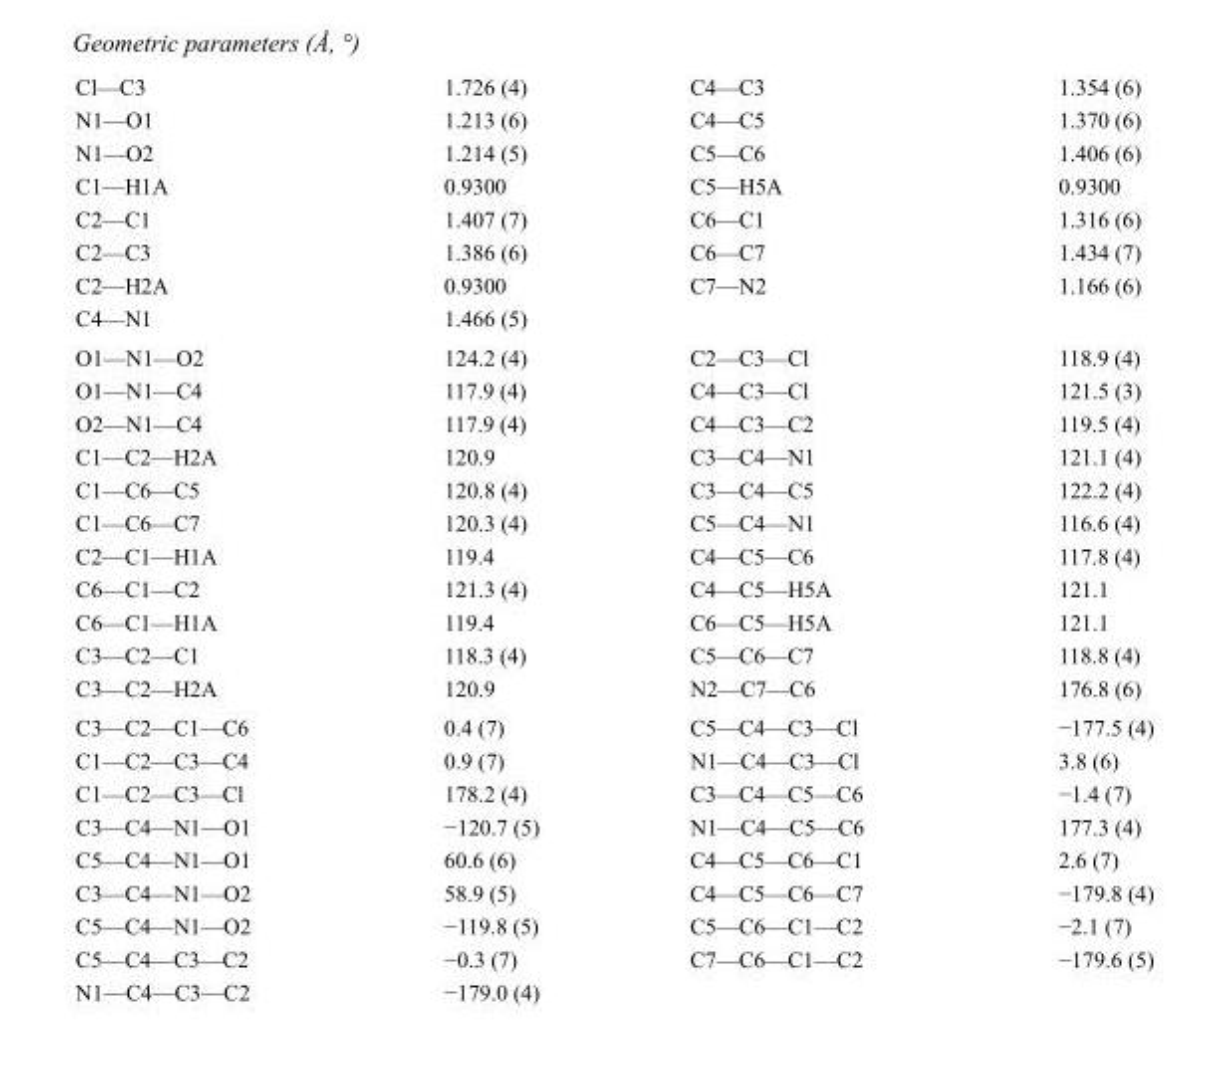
<table><tbody><tr><td>Cl—C3</td><td>1.726 (4)</td><td>C4—C3</td><td>1.354 (6)</td></tr><tr><td>N1—O1</td><td>1.213 (6)</td><td>C4—C5</td><td>1.370 (6)</td></tr><tr><td>N1—O2</td><td>1.214 (5)</td><td>C5—C6</td><td>1.406 (6)</td></tr><tr><td>C1—H1A</td><td>0.9300</td><td>C5—H5A</td><td>0.9300</td></tr><tr><td>C2—C1</td><td>1.407 (7)</td><td>C6—C1</td><td>1.316 (6)</td></tr><tr><td>C2—C3</td><td>1.386 (6)</td><td>C6—C7</td><td>1.434 (7)</td></tr><tr><td>C2—H2A</td><td>0.9300</td><td>C7—N2</td><td>1.166 (6)</td></tr><tr><td>C4—N1</td><td>1.466 (5)</td><td></td><td></td></tr><tr><td>O1—N1—O2</td><td>124.2 (4)</td><td>C2—C3—Cl</td><td>118.9 (4)</td></tr><tr><td>O1—N1—C4</td><td>117.9 (4)</td><td>C4—C3—Cl</td><td>121.5 (3)</td></tr><tr><td>O2—N1—C4</td><td>117.9 (4)</td><td>C4—C3—C2</td><td>119.5 (4)</td></tr><tr><td>C1—C2—H2A</td><td>120.9</td><td>C3—C4—N1</td><td>121.1 (4)</td></tr><tr><td>C1—C6—C5</td><td>120.8 (4)</td><td>C3—C4—C5</td><td>122.2 (4)</td></tr><tr><td>C1—C6—C7</td><td>120.3 (4)</td><td>C5—C4—N1</td><td>116.6 (4)</td></tr><tr><td>C2—C1—H1A</td><td>119.4</td><td>C4—C5—C6</td><td>117.8 (4)</td></tr><tr><td>C6—C1—C2</td><td>121.3 (4)</td><td>C4—C5—H5A</td><td>121.1</td></tr><tr><td>C6—C1—H1A</td><td>119.4</td><td>C6—C5—H5A</td><td>121.1</td></tr><tr><td>C3—C2—C1</td><td>118.3 (4)</td><td>C5—C6—C7</td><td>118.8 (4)</td></tr><tr><td>C3—C2—H2A</td><td>120.9</td><td>N2—C7—C6</td><td>176.8 (6)</td></tr><tr><td>C3—C2—C1—C6</td><td>0.4 (7)</td><td>C5—C4—C3—Cl</td><td>−177.5 (4)</td></tr><tr><td>C1—C2—C3—C4</td><td>0.9 (7)</td><td>N1—C4—C3—Cl</td><td>3.8 (6)</td></tr><tr><td>C1—C2—C3—Cl</td><td>178.2 (4)</td><td>C3—C4—C5—C6</td><td>−1.4 (7)</td></tr><tr><td>C3—C4—N1—O1</td><td>−120.7 (5)</td><td>N1—C4—C5—C6</td><td>177.3 (4)</td></tr><tr><td>C5—C4—N1—O1</td><td>60.6 (6)</td><td>C4—C5—C6—C1</td><td>2.6 (7)</td></tr><tr><td>C3—C4—N1—O2</td><td>58.9 (5)</td><td>C4—C5—C6—C7</td><td>−179.8 (4)</td></tr><tr><td>C5—C4—N1—O2</td><td>−119.8 (5)</td><td>C5—C6—C1—C2</td><td>−2.1 (7)</td></tr><tr><td>C5—C4—C3—C2</td><td>−0.3 (7)</td><td>C7—C6—C1—C2</td><td>−179.6 (5)</td></tr><tr><td>N1—C4—C3—C2</td><td>−179.0 (4)</td><td></td><td></td></tr></tbody></table>